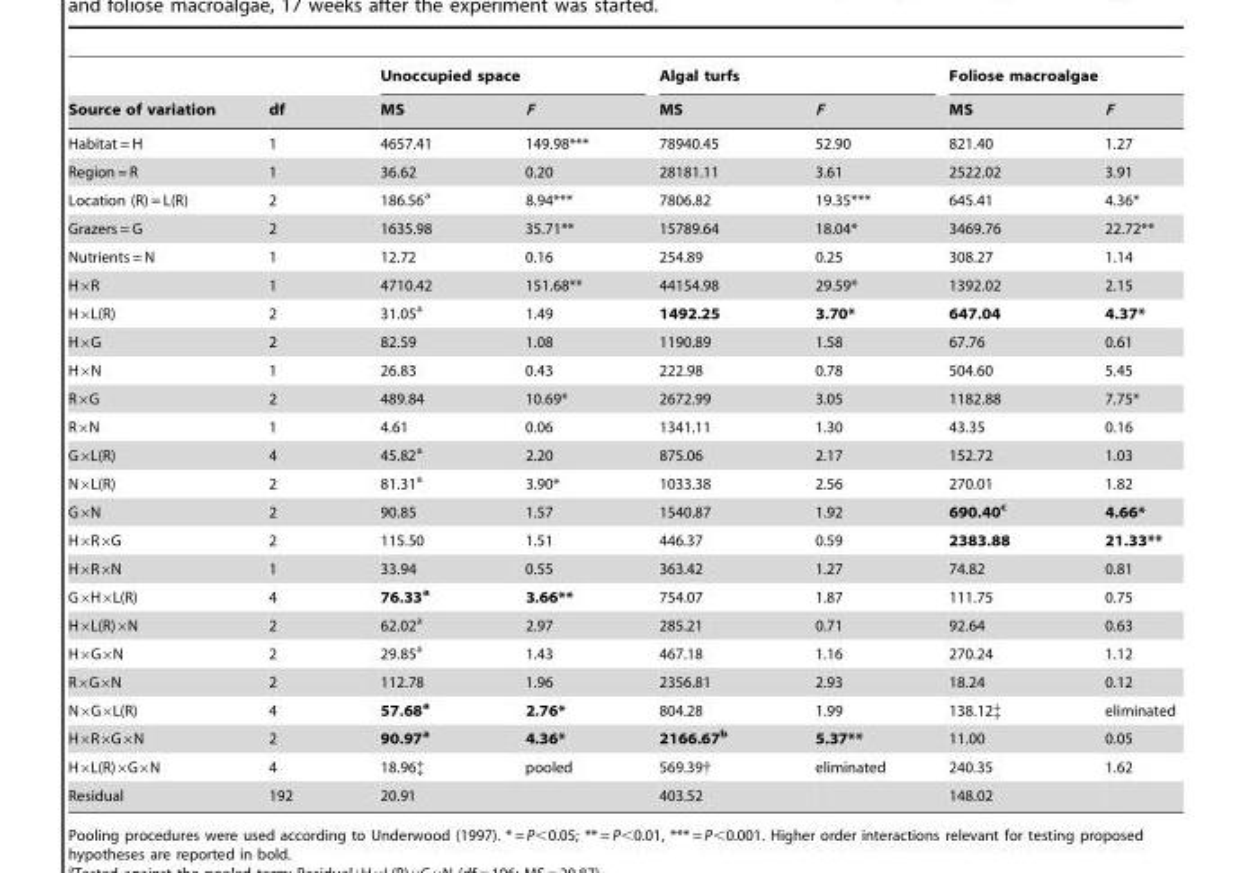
<table><thead><tr><td rowspan="2">Source of variation</td><td rowspan="2">df</td><td colspan="2">Unoccupied space</td><td colspan="2">Algal turfs</td><td colspan="2">Foliose macroalgae</td></tr><tr><td>MS</td><td>F</td><td>MS</td><td>F</td><td>MS</td><td>F</td></tr></thead><tbody><tr><td>Habitat = H</td><td>1</td><td>4657.41</td><td>149.98***</td><td>78940.45</td><td>52.90</td><td>821.40</td><td>1.27</td></tr><tr><td>Region = R</td><td>1</td><td>36.62</td><td>0.20</td><td>28181.11</td><td>3.61</td><td>2522.02</td><td>3.91</td></tr><tr><td>Location (R) = L(R)</td><td>2</td><td>186.56<sup>a</sup></td><td>8.94***</td><td>7806.82</td><td>19.35***</td><td>645.41</td><td>4.36*</td></tr><tr><td>Grazers = G</td><td>2</td><td>1635.98</td><td>35.71**</td><td>15789.64</td><td>18.04*</td><td>3469.76</td><td>22.72**</td></tr><tr><td>Nutrients = N</td><td>1</td><td>12.72</td><td>0.16</td><td>254.89</td><td>0.25</td><td>308.27</td><td>1.14</td></tr><tr><td>H×R</td><td>1</td><td>4710.42</td><td>151.68**</td><td>44154.98</td><td>29.59*</td><td>1392.02</td><td>2.15</td></tr><tr><td>H×L(R)</td><td>2</td><td>31.05<sup>a</sup></td><td>1.49</td><td>1492.25</td><td>3.70*</td><td>647.04</td><td>4.37*</td></tr><tr><td>H×G</td><td>2</td><td>82.59</td><td>1.08</td><td>1190.89</td><td>1.58</td><td>67.76</td><td>0.61</td></tr><tr><td>H×N</td><td>1</td><td>26.83</td><td>0.43</td><td>222.98</td><td>0.78</td><td>504.60</td><td>5.45</td></tr><tr><td>R×G</td><td>2</td><td>489.84</td><td>10.69*</td><td>2672.99</td><td>3.05</td><td>1182.88</td><td>7.75*</td></tr><tr><td>R×N</td><td>1</td><td>4.61</td><td>0.06</td><td>1341.11</td><td>1.30</td><td>43.35</td><td>0.16</td></tr><tr><td>G×L(R)</td><td>4</td><td>45.82<sup>a</sup></td><td>2.20</td><td>875.06</td><td>2.17</td><td>152.72</td><td>1.03</td></tr><tr><td>N×L(R)</td><td>2</td><td>81.31<sup>a</sup></td><td>3.90*</td><td>1033.38</td><td>2.56</td><td>270.01</td><td>1.82</td></tr><tr><td>G×N</td><td>2</td><td>90.85</td><td>1.57</td><td>1540.87</td><td>1.92</td><td>690.40<sup>c</sup></td><td>4.66*</td></tr><tr><td>H×R×G</td><td>2</td><td>115.50</td><td>1.51</td><td>446.37</td><td>0.59</td><td>2383.88</td><td>21.33**</td></tr><tr><td>H×R×N</td><td>1</td><td>33.94</td><td>0.55</td><td>363.42</td><td>1.27</td><td>74.82</td><td>0.81</td></tr><tr><td>G×H×L(R)</td><td>4</td><td>76.33a</td><td>3.66**</td><td>754.07</td><td>1.87</td><td>111.75</td><td>0.75</td></tr><tr><td>H×L(R)×N</td><td>2</td><td>62.02<sup>a</sup></td><td>2.97</td><td>285.21</td><td>0.71</td><td>92.64</td><td>0.63</td></tr><tr><td>H×G×N</td><td>2</td><td>29.85<sup>a</sup></td><td>1.43</td><td>467.18</td><td>1.16</td><td>270.24</td><td>1.12</td></tr><tr><td>R×G×N</td><td>2</td><td>112.78</td><td>1.96</td><td>2356.81</td><td>2.93</td><td>18.24</td><td>0.12</td></tr><tr><td>N×G×L(R)</td><td>4</td><td>57.68a</td><td>2.76*</td><td>804.28</td><td>1.99</td><td>138.12‡</td><td>eliminated</td></tr><tr><td>H×R×G×N</td><td>2</td><td>90.97a</td><td>4.36*</td><td>2166.67b</td><td>5.37**</td><td>11.00</td><td>0.05</td></tr><tr><td>H×L(R)×G×N</td><td>4</td><td>18.96‡</td><td>pooled</td><td>569.39†</td><td>eliminated</td><td>240.35</td><td>1.62</td></tr><tr><td>Residual</td><td>192</td><td>20.91</td><td></td><td>403.52</td><td></td><td>148.02</td><td></td></tr></tbody></table>